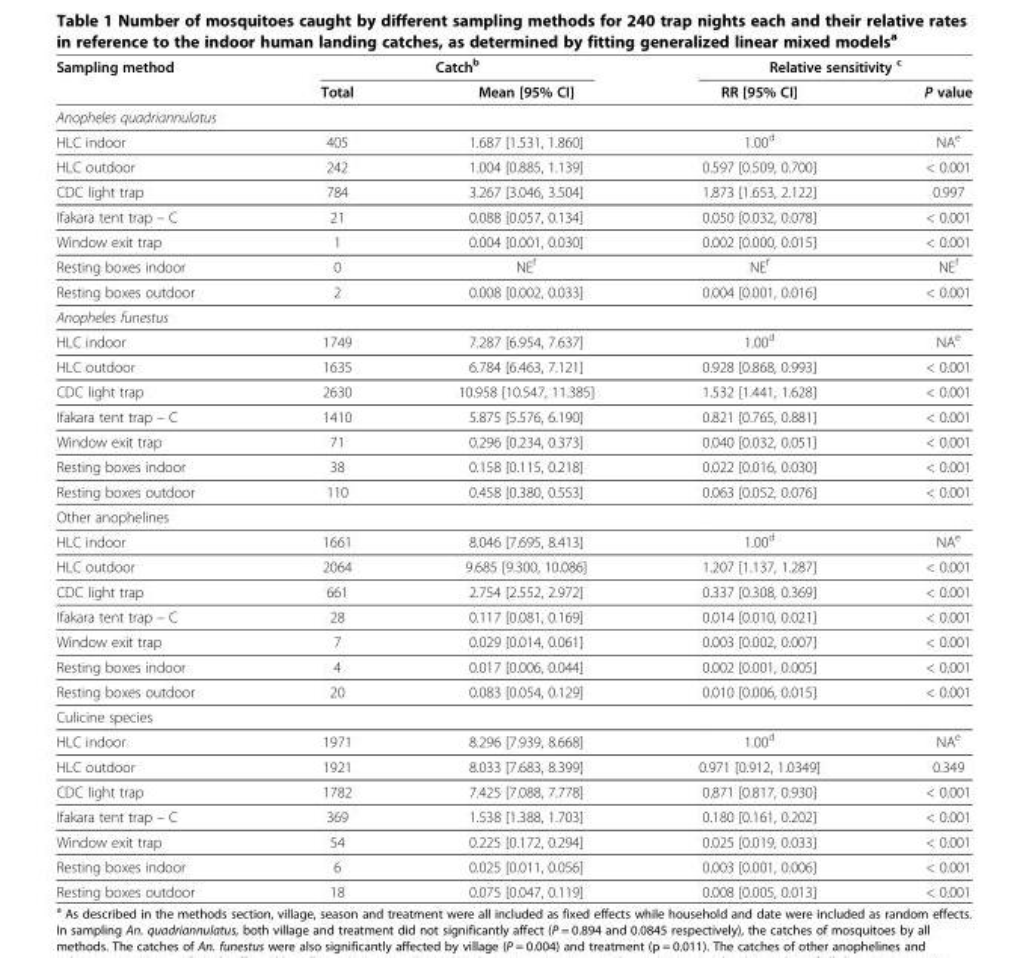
<table><thead><tr><td rowspan="2">Sampling method</td><td colspan="2">Catch<sup>b</sup></td><td colspan="2">Relative sensitivity <sup>c</sup></td></tr><tr><td>Total</td><td>Mean [95% CI]</td><td>RR [95% CI]</td><td>P value</td></tr></thead><tbody><tr><td colspan="5">Anopheles quadriannulatus</td></tr><tr><td>HLC indoor</td><td>405</td><td>1.687 [1.531, 1.860]</td><td>1.00<sup>d</sup></td><td>NA<sup>e</sup></td></tr><tr><td>HLC outdoor</td><td>242</td><td>1.004 [0.885, 1.139]</td><td>0.597 [0.509, 0.700]</td><td>&lt; 0.001</td></tr><tr><td>CDC light trap</td><td>784</td><td>3.267 [3.046, 3.504]</td><td>1.873 [1.653, 2.122]</td><td>0.997</td></tr><tr><td>Ifakara tent trap – C</td><td>21</td><td>0.088 [0.057, 0.134]</td><td>0.050 [0.032, 0.078]</td><td>&lt; 0.001</td></tr><tr><td>Window exit trap</td><td>1</td><td>0.004 [0.001, 0.030]</td><td>0.002 [0.000, 0.015]</td><td>&lt; 0.001</td></tr><tr><td>Resting boxes indoor</td><td>0</td><td>NE<sup>f</sup></td><td>NE<sup>f</sup></td><td>NE<sup>f</sup></td></tr><tr><td>Resting boxes outdoor</td><td>2</td><td>0.008 [0.002, 0.033]</td><td>0.004 [0.001, 0.016]</td><td>&lt; 0.001</td></tr><tr><td colspan="5">Anopheles funestus</td></tr><tr><td>HLC indoor</td><td>1749</td><td>7.287 [6.954, 7.637]</td><td>1.00<sup>d</sup></td><td>NA<sup>e</sup></td></tr><tr><td>HLC outdoor</td><td>1635</td><td>6.784 [6.463, 7.121]</td><td>0.928 [0.868, 0.993]</td><td>&lt; 0.001</td></tr><tr><td>CDC light trap</td><td>2630</td><td>10.958 [10.547, 11.385]</td><td>1.532 [1.441, 1.628]</td><td>&lt; 0.001</td></tr><tr><td>Ifakara tent trap – C</td><td>1410</td><td>5.875 [5.576, 6.190]</td><td>0.821 [0.765, 0.881]</td><td>&lt; 0.001</td></tr><tr><td>Window exit trap</td><td>71</td><td>0.296 [0.234, 0.373]</td><td>0.040 [0.032, 0.051]</td><td>&lt; 0.001</td></tr><tr><td>Resting boxes indoor</td><td>38</td><td>0.158 [0.115, 0.218]</td><td>0.022 [0.016, 0.030]</td><td>&lt; 0.001</td></tr><tr><td>Resting boxes outdoor</td><td>110</td><td>0.458 [0.380, 0.553]</td><td>0.063 [0.052, 0.076]</td><td>&lt; 0.001</td></tr><tr><td colspan="5">Other anophelines</td></tr><tr><td>HLC indoor</td><td>1661</td><td>8.046 [7.695, 8.413]</td><td>1.00<sup>d</sup></td><td>NA<sup>e</sup></td></tr><tr><td>HLC outdoor</td><td>2064</td><td>9.685 [9.300, 10.086]</td><td>1.207 [1.137, 1.287]</td><td>&lt; 0.001</td></tr><tr><td>CDC light trap</td><td>661</td><td>2.754 [2.552, 2.972]</td><td>0.337 [0.308, 0.369]</td><td>&lt; 0.001</td></tr><tr><td>Ifakara tent trap – C</td><td>28</td><td>0.117 [0.081, 0.169]</td><td>0.014 [0.010, 0.021]</td><td>&lt; 0.001</td></tr><tr><td>Window exit trap</td><td>7</td><td>0.029 [0.014, 0.061]</td><td>0.003 [0.002, 0.007]</td><td>&lt; 0.001</td></tr><tr><td>Resting boxes indoor</td><td>4</td><td>0.017 [0.006, 0.044]</td><td>0.002 [0.001, 0.005]</td><td>&lt; 0.001</td></tr><tr><td>Resting boxes outdoor</td><td>20</td><td>0.083 [0.054, 0.129]</td><td>0.010 [0.006, 0.015]</td><td>&lt; 0.001</td></tr><tr><td colspan="5">Culicine species</td></tr><tr><td>HLC indoor</td><td>1971</td><td>8.296 [7.939, 8.668]</td><td>1.00<sup>d</sup></td><td>NA<sup>e</sup></td></tr><tr><td>HLC outdoor</td><td>1921</td><td>8.033 [7.683, 8.399]</td><td>0.971 [0.912, 1.0349]</td><td>0.349</td></tr><tr><td>CDC light trap</td><td>1782</td><td>7.425 [7.088, 7.778]</td><td>0.871 [0.817, 0.930]</td><td>&lt; 0.001</td></tr><tr><td>Ifakara tent trap – C</td><td>369</td><td>1.538 [1.388, 1.703]</td><td>0.180 [0.161, 0.202]</td><td>&lt; 0.001</td></tr><tr><td>Window exit trap</td><td>54</td><td>0.225 [0.172, 0.294]</td><td>0.025 [0.019, 0.033]</td><td>&lt; 0.001</td></tr><tr><td>Resting boxes indoor</td><td>6</td><td>0.025 [0.011, 0.056]</td><td>0.003 [0.001, 0.006]</td><td>&lt; 0.001</td></tr><tr><td>Resting boxes outdoor</td><td>18</td><td>0.075 [0.047, 0.119]</td><td>0.008 [0.005, 0.013]</td><td>&lt; 0.001</td></tr></tbody></table>